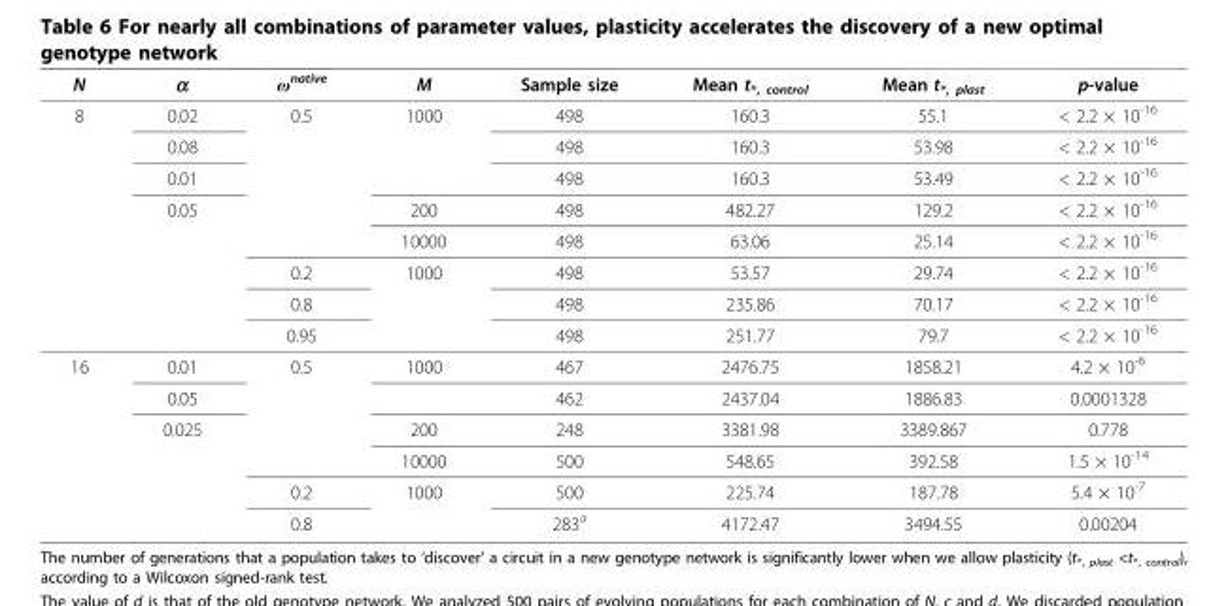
<table><thead><tr><td>N</td><td>α</td><td>ω<sup>native</sup></td><td>M</td><td>Sample size</td><td>Mean t<sub>*, control</sub></td><td>Mean t<sub>*, plast</sub></td><td>p-value</td></tr></thead><tbody><tr><td rowspan="8">8</td><td>0.02</td><td>0.5</td><td>1000</td><td>498</td><td>160.3</td><td>55.1</td><td>&lt; 2.2 × 10<sup>-16</sup></td></tr><tr><td>0.08</td><td></td><td></td><td>498</td><td>160.3</td><td>53.98</td><td>&lt; 2.2 × 10<sup>-16</sup></td></tr><tr><td>0.01</td><td></td><td></td><td>498</td><td>160.3</td><td>53.49</td><td>&lt; 2.2 × 10<sup>-16</sup></td></tr><tr><td>0.05</td><td></td><td>200</td><td>498</td><td>482.27</td><td>129.2</td><td>&lt; 2.2 × 10<sup>-16</sup></td></tr><tr><td></td><td></td><td>10000</td><td>498</td><td>63.06</td><td>25.14</td><td>&lt; 2.2 × 10<sup>-16</sup></td></tr><tr><td></td><td>0.2</td><td>1000</td><td>498</td><td>53.57</td><td>29.74</td><td>&lt; 2.2 × 10<sup>-16</sup></td></tr><tr><td></td><td>0.8</td><td></td><td>498</td><td>235.86</td><td>70.17</td><td>&lt; 2.2 × 10<sup>-16</sup></td></tr><tr><td></td><td>0.95</td><td></td><td>498</td><td>251.77</td><td>79.7</td><td>&lt; 2.2 × 10<sup>-16</sup></td></tr><tr><td rowspan="6">16</td><td>0.01</td><td>0.5</td><td>1000</td><td>467</td><td>2476.75</td><td>1858.21</td><td>4.2 × 10<sup>-6</sup></td></tr><tr><td>0.05</td><td></td><td></td><td>462</td><td>2437.04</td><td>1886.83</td><td>0.0001328</td></tr><tr><td>0.025</td><td></td><td>200</td><td>248</td><td>3381.98</td><td>3389.867</td><td>0.778</td></tr><tr><td></td><td></td><td>10000</td><td>500</td><td>548.65</td><td>392.58</td><td>1.5 × 10<sup>-14</sup></td></tr><tr><td></td><td>0.2</td><td>1000</td><td>500</td><td>225.74</td><td>187.78</td><td>5.4 × 10<sup>-7</sup></td></tr><tr><td></td><td>0.8</td><td></td><td>283<sup>a</sup></td><td>4172.47</td><td>3494.55</td><td>0.00204</td></tr></tbody></table>